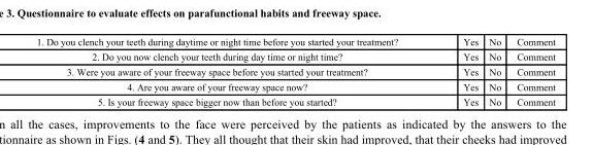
<table><tbody><tr><td>1. Do you clench your teeth during daytime or night time before you started your treatment?</td><td>Yes</td><td>No</td><td>Comment</td></tr><tr><td>2. Do you now clench your teeth during day time or night time?</td><td>Yes</td><td>No</td><td>Comment</td></tr><tr><td>3. Were you aware of your freeway space before you started your treatment?</td><td>Yes</td><td>No</td><td>Comment</td></tr><tr><td>4. Are you aware of your freeway space now?</td><td>Yes</td><td>No</td><td>Comment</td></tr><tr><td>5. Is your freeway space bigger now than before you started?</td><td>Yes</td><td>No</td><td>Comment</td></tr></tbody></table>